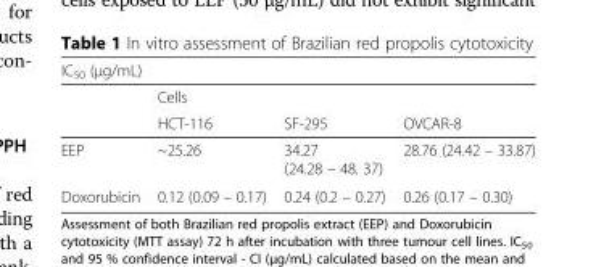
<table><thead><tr><td colspan="4">IC<sub>50</sub> (μg/mL)</td></tr><tr><td rowspan="2"></td><td rowspan="2">Cells HCT-116</td><td rowspan="2">SF-295</td><td rowspan="2">OVCAR-8</td></tr><tr></tr></thead><tbody><tr><td>EEP</td><td>~25.26</td><td>34.27 (24.28 – 48. 37)</td><td>28.76 (24.42 – 33.87)</td></tr><tr><td>Doxorubicin</td><td>0.12 (0.09 – 0.17)</td><td>0.24 (0.2 – 0.27)</td><td>0.26 (0.17 – 0.30)</td></tr></tbody></table>